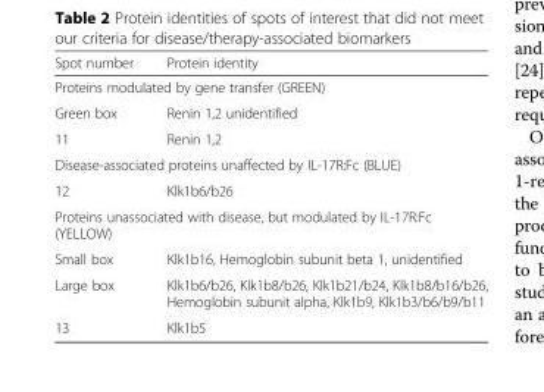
<table><thead><tr><td>Spot number</td><td>Protein identity</td></tr></thead><tbody><tr><td colspan="2">Proteins modulated by gene transfer (GREEN)</td></tr><tr><td>Green box</td><td>Renin 1,2 unidentified</td></tr><tr><td>11</td><td>Renin 1,2</td></tr><tr><td colspan="2">Disease-associated proteins unaffected by IL-17R:Fc (BLUE)</td></tr><tr><td>12</td><td>Klk1b6/b26</td></tr><tr><td colspan="2">Proteins unassociated with disease, but modulated by IL-17R:Fc (YELLOW)</td></tr><tr><td>Small box</td><td>Klk1b16, Hemoglobin subunit beta 1, unidentified</td></tr><tr><td>Large box</td><td>Klk1b6/b26, Klk1b8/b26, Klk1b21/b24, Klk1b8/b16/b26, Hemoglobin subunit alpha, Klk1b9, Klk1b3/b6/b9/b11</td></tr><tr><td>13</td><td>Klk1b5</td></tr></tbody></table>